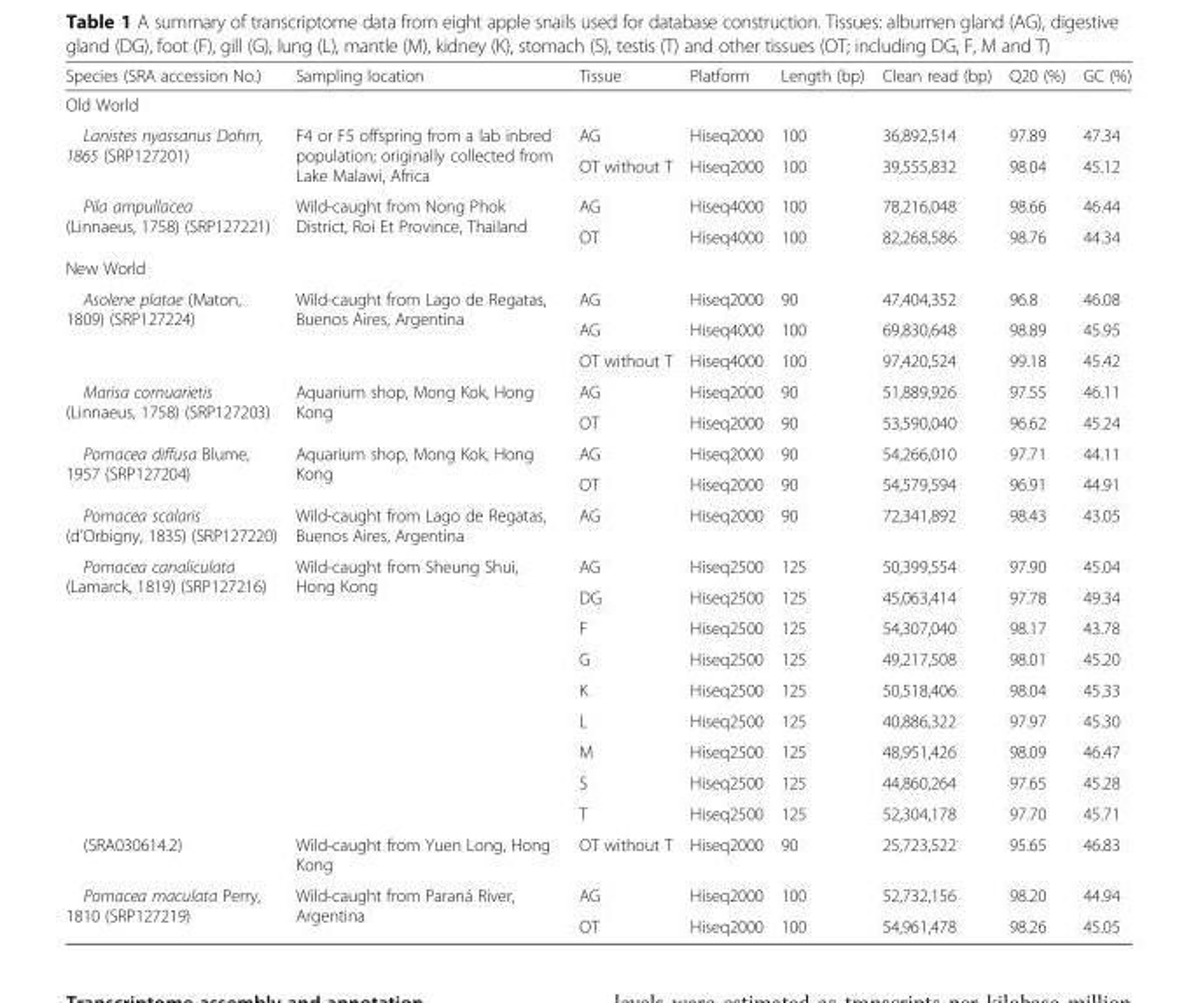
<table><thead><tr><td>Species (SRA accession No.)</td><td>Sampling location</td><td>Tissue</td><td>Platform</td><td>Length (bp)</td><td>Clean read (bp)</td><td>Q20 (%)</td><td>GC (%)</td></tr></thead><tbody><tr><td colspan="8">Old World</td></tr><tr><td rowspan="2">Lanistes nyassanus Dohrn, 1865 (SRP127201)</td><td rowspan="2">F4 or F5 offspring from a lab inbred population; originally collected from Lake Malawi, Africa</td><td>AG</td><td>Hiseq2000</td><td>100</td><td>36,892,514</td><td>97.89</td><td>47.34</td></tr><tr><td>OT without T</td><td>Hiseq2000</td><td>100</td><td>39,555,832</td><td>98.04</td><td>45.12</td></tr><tr><td rowspan="2">Pila ampullacea (Linnaeus, 1758) (SRP127221)</td><td rowspan="2">Wild-caught from Nong Phok District, Roi Et Province, Thailand</td><td>AG</td><td>Hiseq4000</td><td>100</td><td>78,216,048</td><td>98.66</td><td>46.44</td></tr><tr><td>OT</td><td>Hiseq4000</td><td>100</td><td>82,268,586</td><td>98.76</td><td>44.34</td></tr><tr><td colspan="8">New World</td></tr><tr><td rowspan="3">Asolene platae (Maton, 1809) (SRP127224)</td><td rowspan="3">Wild-caught from Lago de Regatas, Buenos Aires, Argentina</td><td>AG</td><td>Hiseq2000</td><td>90</td><td>47,404,352</td><td>96.8</td><td>46.08</td></tr><tr><td>AG</td><td>Hiseq4000</td><td>100</td><td>69,830,648</td><td>98.89</td><td>45.95</td></tr><tr><td>OT without T</td><td>Hiseq4000</td><td>100</td><td>97,420,524</td><td>99.18</td><td>45.42</td></tr><tr><td rowspan="2">Marisa cornuarietis (Linnaeus, 1758) (SRP127203)</td><td rowspan="2">Aquarium shop, Mong Kok, Hong Kong</td><td>AG</td><td>Hiseq2000</td><td>90</td><td>51,889,926</td><td>97.55</td><td>46.11</td></tr><tr><td>OT</td><td>Hiseq2000</td><td>90</td><td>53,590,040</td><td>96.62</td><td>45.24</td></tr><tr><td rowspan="2">Pomacea diffusa Blume, 1957 (SRP127204)</td><td rowspan="2">Aquarium shop, Mong Kok, Hong Kong</td><td>AG</td><td>Hiseq2000</td><td>90</td><td>54,266,010</td><td>97.71</td><td>44.11</td></tr><tr><td>OT</td><td>Hiseq2000</td><td>90</td><td>54,579,594</td><td>96.91</td><td>44.91</td></tr><tr><td>Pomacea scalaris (d’Orbigny, 1835) (SRP127220)</td><td>Wild-caught from Lago de Regatas, Buenos Aires, Argentina</td><td>AG</td><td>Hiseq2000</td><td>90</td><td>72,341,892</td><td>98.43</td><td>43.05</td></tr><tr><td rowspan="9">Pomacea canaliculata (Lamarck, 1819) (SRP127216)</td><td rowspan="9">Wild-caught from Sheung Shui, Hong Kong</td><td>AG</td><td>Hiseq2500</td><td>125</td><td>50,399,554</td><td>97.90</td><td>45.04</td></tr><tr><td>DG</td><td>Hiseq2500</td><td>125</td><td>45,063,414</td><td>97.78</td><td>49.34</td></tr><tr><td>F</td><td>Hiseq2500</td><td>125</td><td>54,307,040</td><td>98.17</td><td>43.78</td></tr><tr><td>G</td><td>Hiseq2500</td><td>125</td><td>49,217,508</td><td>98.01</td><td>45.20</td></tr><tr><td>K</td><td>Hiseq2500</td><td>125</td><td>50,518,406</td><td>98.04</td><td>45.33</td></tr><tr><td>L</td><td>Hiseq2500</td><td>125</td><td>40,886,322</td><td>97.97</td><td>45.30</td></tr><tr><td>M</td><td>Hiseq2500</td><td>125</td><td>48,951,426</td><td>98.09</td><td>46.47</td></tr><tr><td>S</td><td>Hiseq2500</td><td>125</td><td>44,860,264</td><td>97.65</td><td>45.28</td></tr><tr><td>T</td><td>Hiseq2500</td><td>125</td><td>52,304,178</td><td>97.70</td><td>45.71</td></tr><tr><td>(SRA030614.2)</td><td>Wild-caught from Yuen Long, Hong Kong</td><td>OT without T</td><td>Hiseq2000</td><td>90</td><td>25,723,522</td><td>95.65</td><td>46.83</td></tr><tr><td rowspan="2">Pomacea maculata Perry, 1810 (SRP127219)</td><td rowspan="2">Wild-caught from Paraná River, Argentina</td><td>AG</td><td>Hiseq2000</td><td>100</td><td>52,732,156</td><td>98.20</td><td>44.94</td></tr><tr><td>OT</td><td>Hiseq2000</td><td>100</td><td>54,961,478</td><td>98.26</td><td>45.05</td></tr></tbody></table>